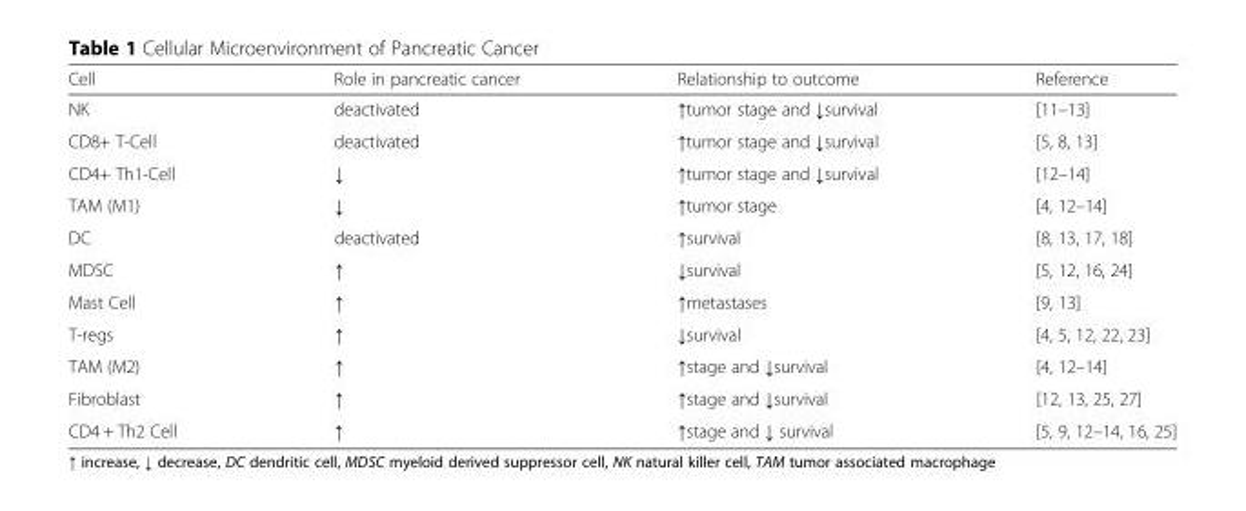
<table><thead><tr><td>Cell</td><td>Role in pancreatic cancer</td><td>Relationship to outcome</td><td>Reference</td></tr></thead><tbody><tr><td>NK</td><td>deactivated</td><td>↑tumor stage and ↓survival</td><td>[11–13]</td></tr><tr><td>CD8+ T-Cell</td><td>deactivated</td><td>↑tumor stage and ↓survival</td><td>[5, 8, 13]</td></tr><tr><td>CD4+ Th1-Cell</td><td>↓</td><td>↑tumor stage and ↓survival</td><td>[12–14]</td></tr><tr><td>TAM (M1)</td><td>↓</td><td>↑tumor stage</td><td>[4, 12–14]</td></tr><tr><td>DC</td><td>deactivated</td><td>↑survival</td><td>[8, 13, 17, 18]</td></tr><tr><td>MDSC</td><td>↑</td><td>↓survival</td><td>[5, 12, 16, 24]</td></tr><tr><td>Mast Cell</td><td>↑</td><td>↑metastases</td><td>[9, 13]</td></tr><tr><td>T-regs</td><td>↑</td><td>↓survival</td><td>[4, 5, 12, 22, 23]</td></tr><tr><td>TAM (M2)</td><td>↑</td><td>↑stage and ↓survival</td><td>[4, 12–14]</td></tr><tr><td>Fibroblast</td><td>↑</td><td>↑stage and ↓survival</td><td>[12, 13, 25, 27]</td></tr><tr><td>CD4 + Th2 Cell</td><td>↑</td><td>↑stage and ↓ survival</td><td>[5, 9, 12–14, 16, 25]</td></tr></tbody></table>